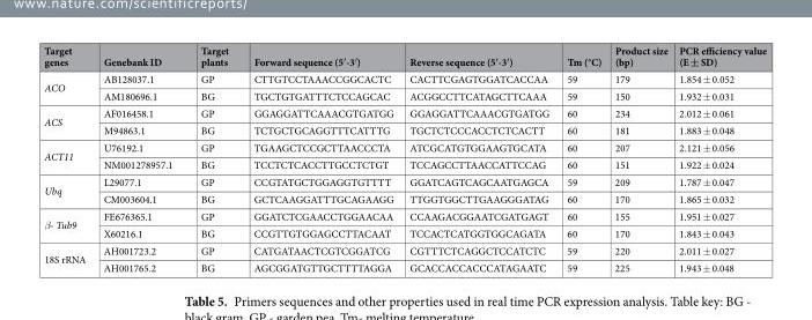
<table><thead><tr><td>Target genes</td><td>Genebank ID</td><td>Target plants</td><td>Forward sequence (5′-3′)</td><td>Reverse sequence (5′-3′)</td><td>Tm (°C)</td><td>Product size (bp)</td><td>PCR efficiency value (E ± SD)</td></tr></thead><tbody><tr><td rowspan="2">ACO</td><td>AB128037.1</td><td>GP</td><td>CTTGTCCTAAACCGGCACTC</td><td>CACTTCGAGTGGATCACCAA</td><td>59</td><td>179</td><td>1.854 ± 0.052</td></tr><tr><td>AM180696.1</td><td>BG</td><td>TGCTGTGATTTCTCCAGCAC</td><td>ACGGCCTTCATAGCTTCAAA</td><td>59</td><td>150</td><td>1.932 ± 0.031</td></tr><tr><td rowspan="2">ACS</td><td>AF016458.1</td><td>GP</td><td>GGAGGATTCAAACGTGATGG</td><td>GGAGGATTCAAACGTGATGG</td><td>60</td><td>234</td><td>2.012 ± 0.061</td></tr><tr><td>M94863.1</td><td>BG</td><td>TCTGCTGCAGGTTTCATTTG</td><td>TGCTCTCCCACCTCTCACTT</td><td>60</td><td>181</td><td>1.883 ± 0.048</td></tr><tr><td rowspan="2">ACT11</td><td>U76192.1</td><td>GP</td><td>TGAAGCTCCGCTTAACCCTA</td><td>ATCGCATGTGGAAGTGCATA</td><td>60</td><td>207</td><td>2.121 ± 0.056</td></tr><tr><td>NM001278957.1</td><td>BG</td><td>TCCTCTCACCTTGCCTCTGT</td><td>TCCAGCCTTAACCATTCCAG</td><td>60</td><td>151</td><td>1.922 ± 0.024</td></tr><tr><td rowspan="2">Ubq</td><td>L29077.1</td><td>GP</td><td>CCGTATGCTGGAGGTGTTTT</td><td>GGATCAGTCAGCAATGAGCA</td><td>59</td><td>209</td><td>1.787 ± 0.047</td></tr><tr><td>CM003604.1</td><td>BG</td><td>GCTCAAGGATTTGCAGAAGG</td><td>TTGGTGGCTTGAAGGGATAG</td><td>60</td><td>170</td><td>1.865 ± 0.032</td></tr><tr><td rowspan="2">β- Tub9</td><td>FE676365.1</td><td>GP</td><td>GGATCTCGAACCTGGAACAA</td><td>CCAAGACGGAATCGATGAGT</td><td>60</td><td>155</td><td>1.951 ± 0.027</td></tr><tr><td>X60216.1</td><td>BG</td><td>CCGTTGTGGAGCCTTACAAT</td><td>TCCACTCATGGTGGCAGATA</td><td>60</td><td>170</td><td>1.843 ± 0.043</td></tr><tr><td rowspan="2">18S rRNA</td><td>AH001723.2</td><td>GP</td><td>CATGATAACTCGTCGGATCG</td><td>CGTTTCTCAGGCTCCATCTC</td><td>59</td><td>220</td><td>2.011 ± 0.027</td></tr><tr><td>AH001765.2</td><td>BG</td><td>AGCGGATGTTGCTTTTAGGA</td><td>GCACCACCACCCATAGAATC</td><td>59</td><td>225</td><td>1.943 ± 0.048</td></tr></tbody></table>